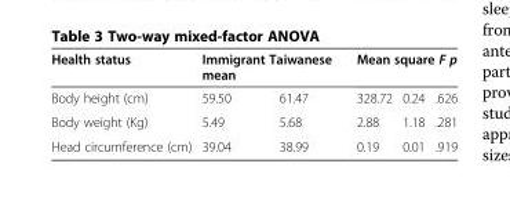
<table><thead><tr><td rowspan="2">Health status Body height (cm)</td><td colspan="2">Immigrant Taiwanese mean</td><td colspan="3">Mean square F p</td></tr><tr><td>59.50</td><td>61.47</td><td>328.72</td><td>0.24</td><td>.626</td></tr></thead><tbody><tr><td>Body weight (Kg)</td><td>5.49</td><td>5.68</td><td>2.88</td><td>1.18</td><td>.281</td></tr><tr><td>Head circumference (cm)</td><td>39.04</td><td>38.99</td><td>0.19</td><td>0.01</td><td>.919</td></tr></tbody></table>